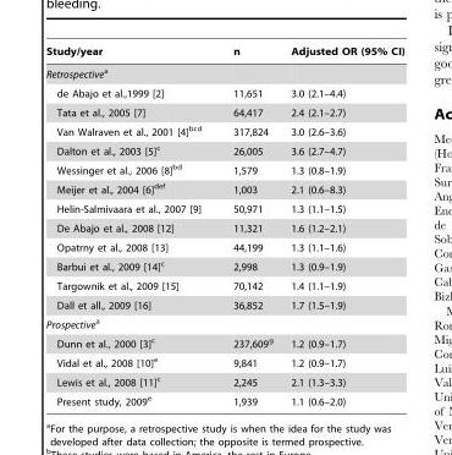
<table><thead><tr><td>Study/year</td><td>n</td><td>Adjusted OR (95% CI)</td></tr></thead><tbody><tr><td colspan="3">Retrospectivea</td></tr><tr><td>de Abajo et al.,1999 [2]</td><td>11,651</td><td>3.0 (2.1–4.4)</td></tr><tr><td>Tata et al., 2005 [7]</td><td>64,417</td><td>2.4 (2.1–2.7)</td></tr><tr><td>Van Walraven et al., 2001 [4]bcd</td><td>317,824</td><td>3.0 (2.6–3.6)</td></tr><tr><td>Dalton et al., 2003 [5]c</td><td>26,005</td><td>3.6 (2.7–4.7)</td></tr><tr><td>Wessinger et al., 2006 [8]bd</td><td>1,579</td><td>1.3 (0.8–1.9)</td></tr><tr><td>Meijer et al., 2004 [6]def</td><td>1,003</td><td>2.1 (0.6–8.3)</td></tr><tr><td>Helin-Salmivaara et al., 2007 [9]</td><td>50,971</td><td>1.3 (1.1–1.5)</td></tr><tr><td>De Abajo et al., 2008 [12]</td><td>11,321</td><td>1.6 (1.2–2.1)</td></tr><tr><td>Opatrny et al., 2008 [13]</td><td>44,199</td><td>1.3 (1.1–1.6)</td></tr><tr><td>Barbui et al., 2009 [14]c</td><td>2,998</td><td>1.3 (0.9–1.9)</td></tr><tr><td>Targownik et al., 2009 [15]</td><td>70,142</td><td>1.4 (1.1–1.9)</td></tr><tr><td>Dall et all., 2009 [16]</td><td>36,852</td><td>1.7 (1.5–1.9)</td></tr><tr><td colspan="3">Prospectivea</td></tr><tr><td>Dunn et al., 2000 [3]c</td><td>237,609<sup>g</sup></td><td>1.2 (0.9–1.7)</td></tr><tr><td>Vidal et al., 2008 [10]e</td><td>9,841</td><td>1.2 (0.9–1.7)</td></tr><tr><td>Lewis et al., 2008 [11]c</td><td>2,245</td><td>2.1 (1.3–3.3)</td></tr><tr><td>Present study, 2009<sup>e</sup></td><td>1,939</td><td>1.1 (0.6–2.0)</td></tr></tbody></table>